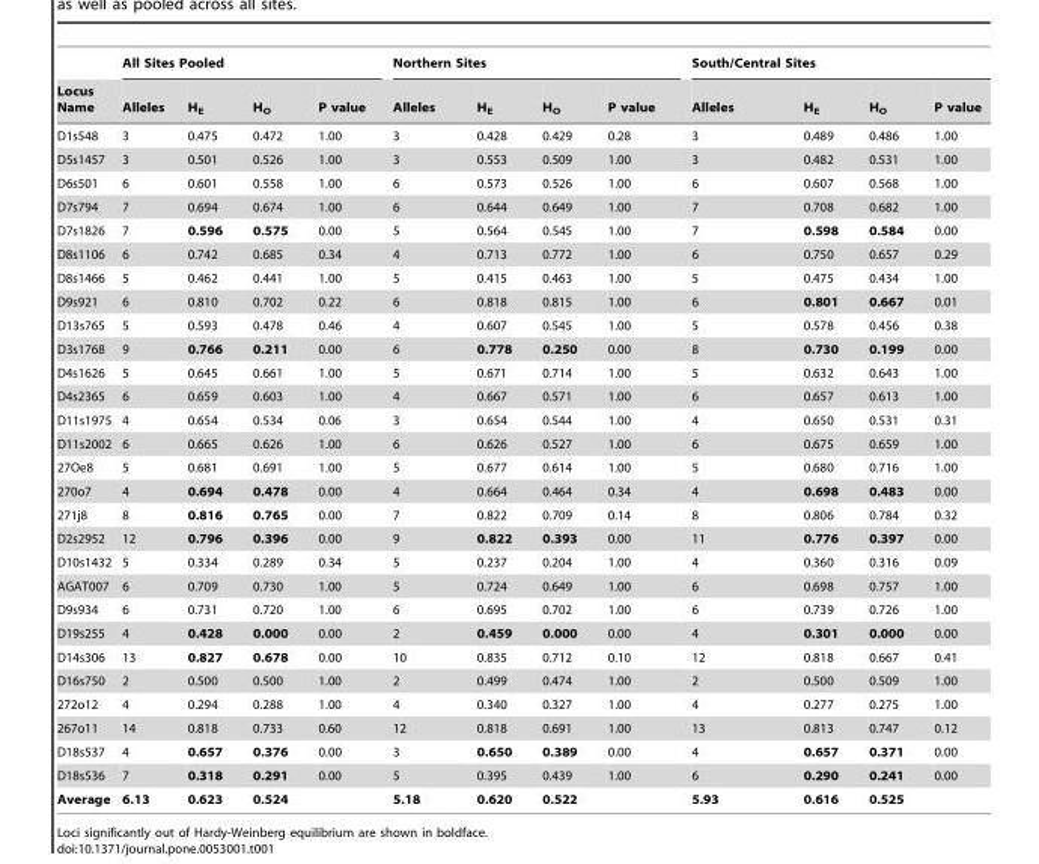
<table><thead><tr><td rowspan="2">Locus Name</td><td colspan="4">All Sites Pooled</td><td colspan="4">Northern Sites</td><td colspan="4">South/Central Sites</td></tr><tr><td>Alleles</td><td>H<sub>E</sub></td><td>H<sub>O</sub></td><td>P value</td><td>Alleles</td><td>H<sub>E</sub></td><td>H<sub>O</sub></td><td>P value</td><td>Alleles</td><td>H<sub>E</sub></td><td>H<sub>O</sub></td><td>P value</td></tr></thead><tbody><tr><td>D1s548</td><td>3</td><td>0.475</td><td>0.472</td><td>1.00</td><td>3</td><td>0.428</td><td>0.429</td><td>0.28</td><td>3</td><td>0.489</td><td>0.486</td><td>1.00</td></tr><tr><td>D5s1457</td><td>3</td><td>0.501</td><td>0.526</td><td>1.00</td><td>3</td><td>0.553</td><td>0.509</td><td>1.00</td><td>3</td><td>0.482</td><td>0.531</td><td>1.00</td></tr><tr><td>D6s501</td><td>6</td><td>0.601</td><td>0.558</td><td>1.00</td><td>6</td><td>0.573</td><td>0.526</td><td>1.00</td><td>6</td><td>0.607</td><td>0.568</td><td>1.00</td></tr><tr><td>D7s794</td><td>7</td><td>0.694</td><td>0.674</td><td>1.00</td><td>6</td><td>0.644</td><td>0.649</td><td>1.00</td><td>7</td><td>0.708</td><td>0.682</td><td>1.00</td></tr><tr><td>D7s1826</td><td>7</td><td>0.596</td><td>0.575</td><td>0.00</td><td>5</td><td>0.564</td><td>0.545</td><td>1.00</td><td>7</td><td>0.598</td><td>0.584</td><td>0.00</td></tr><tr><td>D8s1106</td><td>6</td><td>0.742</td><td>0.685</td><td>0.34</td><td>4</td><td>0.713</td><td>0.772</td><td>1.00</td><td>6</td><td>0.750</td><td>0.657</td><td>0.29</td></tr><tr><td>D8s1466</td><td>5</td><td>0.462</td><td>0.441</td><td>1.00</td><td>5</td><td>0.415</td><td>0.463</td><td>1.00</td><td>5</td><td>0.475</td><td>0.434</td><td>1.00</td></tr><tr><td>D9s921</td><td>6</td><td>0.810</td><td>0.702</td><td>0.22</td><td>6</td><td>0.818</td><td>0.815</td><td>1.00</td><td>6</td><td>0.801</td><td>0.667</td><td>0.01</td></tr><tr><td>D13s765</td><td>5</td><td>0.593</td><td>0.478</td><td>0.46</td><td>4</td><td>0.607</td><td>0.545</td><td>1.00</td><td>5</td><td>0.578</td><td>0.456</td><td>0.38</td></tr><tr><td>D3s1768</td><td>9</td><td>0.766</td><td>0.211</td><td>0.00</td><td>6</td><td>0.778</td><td>0.250</td><td>0.00</td><td>8</td><td>0.730</td><td>0.199</td><td>0.00</td></tr><tr><td>D4s1626</td><td>5</td><td>0.645</td><td>0.661</td><td>1.00</td><td>5</td><td>0.671</td><td>0.714</td><td>1.00</td><td>5</td><td>0.632</td><td>0.643</td><td>1.00</td></tr><tr><td>D4s2365</td><td>6</td><td>0.659</td><td>0.603</td><td>1.00</td><td>4</td><td>0.667</td><td>0.571</td><td>1.00</td><td>6</td><td>0.657</td><td>0.613</td><td>1.00</td></tr><tr><td>D11s1975</td><td>4</td><td>0.654</td><td>0.534</td><td>0.06</td><td>3</td><td>0.654</td><td>0.544</td><td>1.00</td><td>4</td><td>0.650</td><td>0.531</td><td>0.31</td></tr><tr><td>D11s2002</td><td>6</td><td>0.665</td><td>0.626</td><td>1.00</td><td>6</td><td>0.626</td><td>0.527</td><td>1.00</td><td>6</td><td>0.675</td><td>0.659</td><td>1.00</td></tr><tr><td>27Oe8</td><td>5</td><td>0.681</td><td>0.691</td><td>1.00</td><td>5</td><td>0.677</td><td>0.614</td><td>1.00</td><td>5</td><td>0.680</td><td>0.716</td><td>1.00</td></tr><tr><td>270o7</td><td>4</td><td>0.694</td><td>0.478</td><td>0.00</td><td>4</td><td>0.664</td><td>0.464</td><td>0.34</td><td>4</td><td>0.698</td><td>0.483</td><td>0.00</td></tr><tr><td>271j8</td><td>8</td><td>0.816</td><td>0.765</td><td>0.00</td><td>7</td><td>0.822</td><td>0.709</td><td>0.14</td><td>8</td><td>0.806</td><td>0.784</td><td>0.32</td></tr><tr><td>D2s2952</td><td>12</td><td>0.796</td><td>0.396</td><td>0.00</td><td>9</td><td>0.822</td><td>0.393</td><td>0.00</td><td>11</td><td>0.776</td><td>0.397</td><td>0.00</td></tr><tr><td>D10s1432</td><td>5</td><td>0.334</td><td>0.289</td><td>0.34</td><td>5</td><td>0.237</td><td>0.204</td><td>1.00</td><td>4</td><td>0.360</td><td>0.316</td><td>0.09</td></tr><tr><td>AGAT007</td><td>6</td><td>0.709</td><td>0.730</td><td>1.00</td><td>5</td><td>0.724</td><td>0.649</td><td>1.00</td><td>6</td><td>0.698</td><td>0.757</td><td>1.00</td></tr><tr><td>D9s934</td><td>6</td><td>0.731</td><td>0.720</td><td>1.00</td><td>6</td><td>0.695</td><td>0.702</td><td>1.00</td><td>6</td><td>0.739</td><td>0.726</td><td>1.00</td></tr><tr><td>D19s255</td><td>4</td><td>0.428</td><td>0.000</td><td>0.00</td><td>2</td><td>0.459</td><td>0.000</td><td>0.00</td><td>4</td><td>0.301</td><td>0.000</td><td>0.00</td></tr><tr><td>D14s306</td><td>13</td><td>0.827</td><td>0.678</td><td>0.00</td><td>10</td><td>0.835</td><td>0.712</td><td>0.10</td><td>12</td><td>0.818</td><td>0.667</td><td>0.41</td></tr><tr><td>D16s750</td><td>2</td><td>0.500</td><td>0.500</td><td>1.00</td><td>2</td><td>0.499</td><td>0.474</td><td>1.00</td><td>2</td><td>0.500</td><td>0.509</td><td>1.00</td></tr><tr><td>272o12</td><td>4</td><td>0.294</td><td>0.288</td><td>1.00</td><td>4</td><td>0.340</td><td>0.327</td><td>1.00</td><td>4</td><td>0.277</td><td>0.275</td><td>1.00</td></tr><tr><td>267o11</td><td>14</td><td>0.818</td><td>0.733</td><td>0.60</td><td>12</td><td>0.818</td><td>0.691</td><td>1.00</td><td>13</td><td>0.813</td><td>0.747</td><td>0.12</td></tr><tr><td>D18s537</td><td>4</td><td>0.657</td><td>0.376</td><td>0.00</td><td>3</td><td>0.650</td><td>0.389</td><td>0.00</td><td>4</td><td>0.657</td><td>0.371</td><td>0.00</td></tr><tr><td>D18s536</td><td>7</td><td>0.318</td><td>0.291</td><td>0.00</td><td>5</td><td>0.395</td><td>0.439</td><td>1.00</td><td>6</td><td>0.290</td><td>0.241</td><td>0.00</td></tr><tr><td>Average</td><td>6.13</td><td>0.623</td><td>0.524</td><td></td><td>5.18</td><td>0.620</td><td>0.522</td><td></td><td>5.93</td><td>0.616</td><td>0.525</td><td></td></tr></tbody></table>